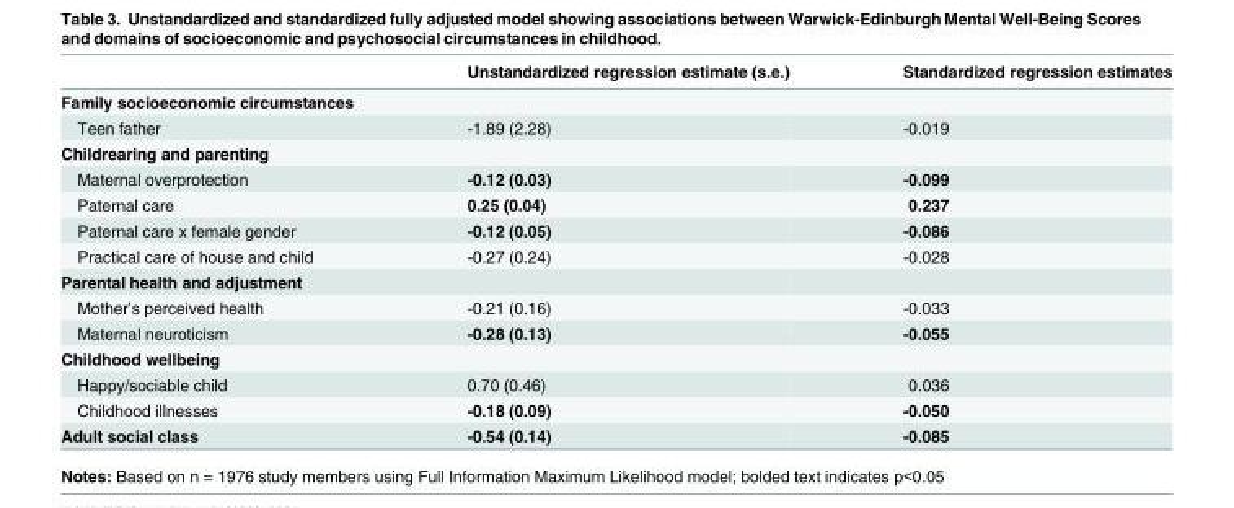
<table><thead><tr><td></td><td>Unstandardized regression estimate (s.e.)</td><td>Standardized regression estimates</td></tr></thead><tbody><tr><td colspan="3">Family socioeconomic circumstances</td></tr><tr><td>Teen father</td><td>-1.89 (2.28)</td><td>-0.019</td></tr><tr><td colspan="3">Childrearing and parenting</td></tr><tr><td>Maternal overprotection</td><td>-0.12 (0.03)</td><td>-0.099</td></tr><tr><td>Paternal care</td><td>0.25 (0.04)</td><td>0.237</td></tr><tr><td>Paternal care x female gender</td><td>-0.12 (0.05)</td><td>-0.086</td></tr><tr><td>Practical care of house and child</td><td>-0.27 (0.24)</td><td>-0.028</td></tr><tr><td colspan="3">Parental health and adjustment</td></tr><tr><td>Mother’s perceived health</td><td>-0.21 (0.16)</td><td>-0.033</td></tr><tr><td>Maternal neuroticism</td><td>-0.28 (0.13)</td><td>-0.055</td></tr><tr><td colspan="3">Childhood wellbeing</td></tr><tr><td>Happy/sociable child</td><td>0.70 (0.46)</td><td>0.036</td></tr><tr><td>Childhood illnesses</td><td>-0.18 (0.09)</td><td>-0.050</td></tr><tr><td>Adult social class</td><td>-0.54 (0.14)</td><td>-0.085</td></tr></tbody></table>